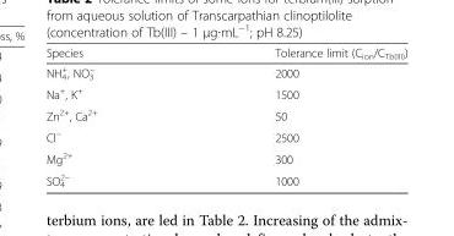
<table><thead><tr><td>Species</td><td>Tolerance limit (C<sub>ion</sub>/C<sub>Tb(III)</sub>)</td></tr></thead><tbody><tr><td>NH<sub>4</sub> <sup>+</sup>, NO<sub>3</sub> <sup>−</sup></td><td>2000</td></tr><tr><td>Na<sup>+</sup>, K<sup>+</sup></td><td>1500</td></tr><tr><td>Zn<sup>2+</sup>, Ca<sup>2+</sup></td><td>50</td></tr><tr><td>Cl<sup>−</sup></td><td>2500</td></tr><tr><td>Mg<sup>2+</sup></td><td>300</td></tr><tr><td>SO<sub>4</sub> <sup>2−</sup></td><td>1000</td></tr></tbody></table>